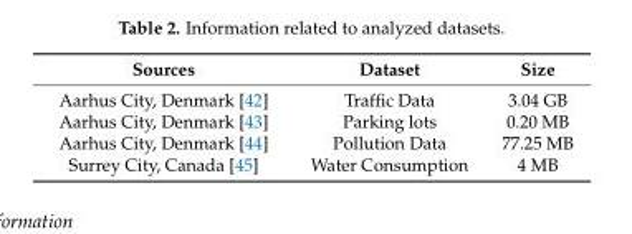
<table><thead><tr><td>Sources</td><td>Dataset</td><td>Size</td></tr></thead><tbody><tr><td>Aarhus City, Denmark [42]</td><td>Traffic Data</td><td>3.04 GB</td></tr><tr><td>Aarhus City, Denmark [43]</td><td>Parking lots</td><td>0.20 MB</td></tr><tr><td>Aarhus City, Denmark [44]</td><td>Pollution Data</td><td>77.25 MB</td></tr><tr><td>Surrey City, Canada [45]</td><td>Water Consumption</td><td>4 MB</td></tr></tbody></table>